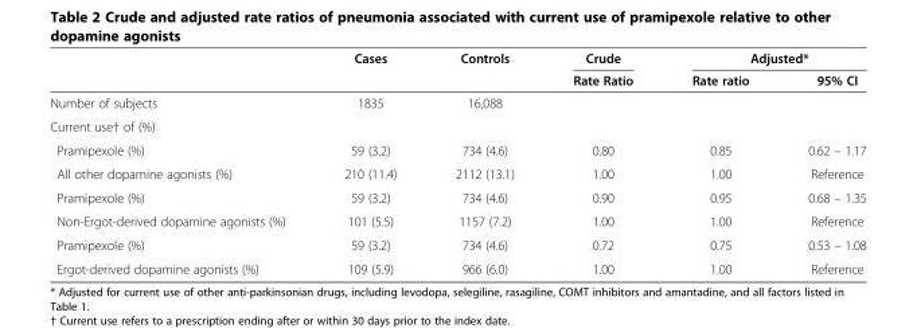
<table><thead><tr><td rowspan="2"></td><td rowspan="2">Cases</td><td rowspan="2">Controls</td><td rowspan="2">Crude Rate Ratio</td><td colspan="2">Adjusted*</td></tr><tr><td>Rate ratio</td><td>95% CI</td></tr></thead><tbody><tr><td>Number of subjects</td><td>1835</td><td>16,088</td><td></td><td></td><td></td></tr><tr><td colspan="6">Current use† of (%)</td></tr><tr><td>Pramipexole (%)</td><td>59 (3.2)</td><td>734 (4.6)</td><td>0.80</td><td>0.85</td><td>0.62 – 1.17</td></tr><tr><td>All other dopamine agonists (%)</td><td>210 (11.4)</td><td>2112 (13.1)</td><td>1.00</td><td>1.00</td><td>Reference</td></tr><tr><td>Pramipexole (%)</td><td>59 (3.2)</td><td>734 (4.6)</td><td>0.90</td><td>0.95</td><td>0.68 – 1.35</td></tr><tr><td>Non-Ergot-derived dopamine agonists (%)</td><td>101 (5.5)</td><td>1157 (7.2)</td><td>1.00</td><td>1.00</td><td>Reference</td></tr><tr><td>Pramipexole (%)</td><td>59 (3.2)</td><td>734 (4.6)</td><td>0.72</td><td>0.75</td><td>0.53 – 1.08</td></tr><tr><td>Ergot-derived dopamine agonists (%)</td><td>109 (5.9)</td><td>966 (6.0)</td><td>1.00</td><td>1.00</td><td>Reference</td></tr></tbody></table>